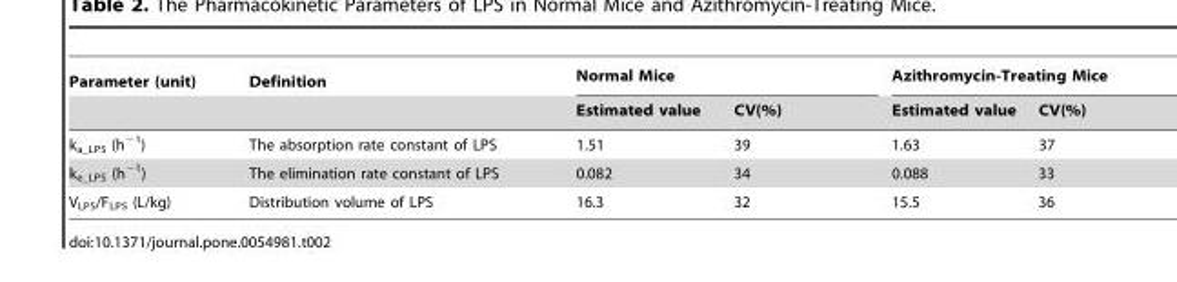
<table><thead><tr><td rowspan="2">Parameter (unit)</td><td rowspan="2">Definition</td><td colspan="2">Normal Mice</td><td colspan="2">Azithromycin-Treating Mice</td></tr><tr><td>Estimated value</td><td>CV(%)</td><td>Estimated value</td><td>CV(%)</td></tr></thead><tbody><tr><td>k<sub>a_LPS</sub> (h<sup>−1</sup>)</td><td>The absorption rate constant of LPS</td><td>1.51</td><td>39</td><td>1.63</td><td>37</td></tr><tr><td>k<sub>e_LPS</sub> (h<sup>−1</sup>)</td><td>The elimination rate constant of LPS</td><td>0.082</td><td>34</td><td>0.088</td><td>33</td></tr><tr><td>V<sub>LPS</sub>/F<sub>LPS</sub> (L/kg)</td><td>Distribution volume of LPS</td><td>16.3</td><td>32</td><td>15.5</td><td>36</td></tr></tbody></table>